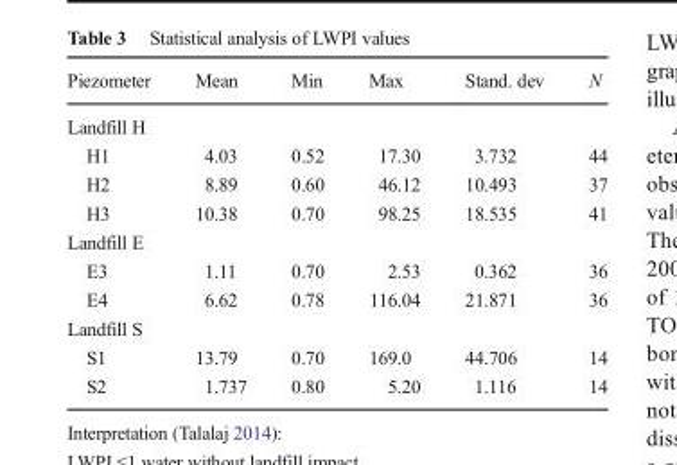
<table><thead><tr><td>Piezometer</td><td>Mean</td><td>Min</td><td>Max</td><td>Stand. dev</td><td>N</td></tr></thead><tbody><tr><td colspan="6">Landfill H</td></tr><tr><td>H1</td><td>4.03</td><td>0.52</td><td>17.30</td><td>3.732</td><td>44</td></tr><tr><td>H2</td><td>8.89</td><td>0.60</td><td>46.12</td><td>10.493</td><td>37</td></tr><tr><td>H3</td><td>10.38</td><td>0.70</td><td>98.25</td><td>18.535</td><td>41</td></tr><tr><td colspan="6">Landfill E</td></tr><tr><td>E3</td><td>1.11</td><td>0.70</td><td>2.53</td><td>0.362</td><td>36</td></tr><tr><td>E4</td><td>6.62</td><td>0.78</td><td>116.04</td><td>21.871</td><td>36</td></tr><tr><td colspan="6">Landfill S</td></tr><tr><td>S1</td><td>13.79</td><td>0.70</td><td>169.0</td><td>44.706</td><td>14</td></tr><tr><td>S2</td><td>1.737</td><td>0.80</td><td>5.20</td><td>1.116</td><td>14</td></tr></tbody></table>